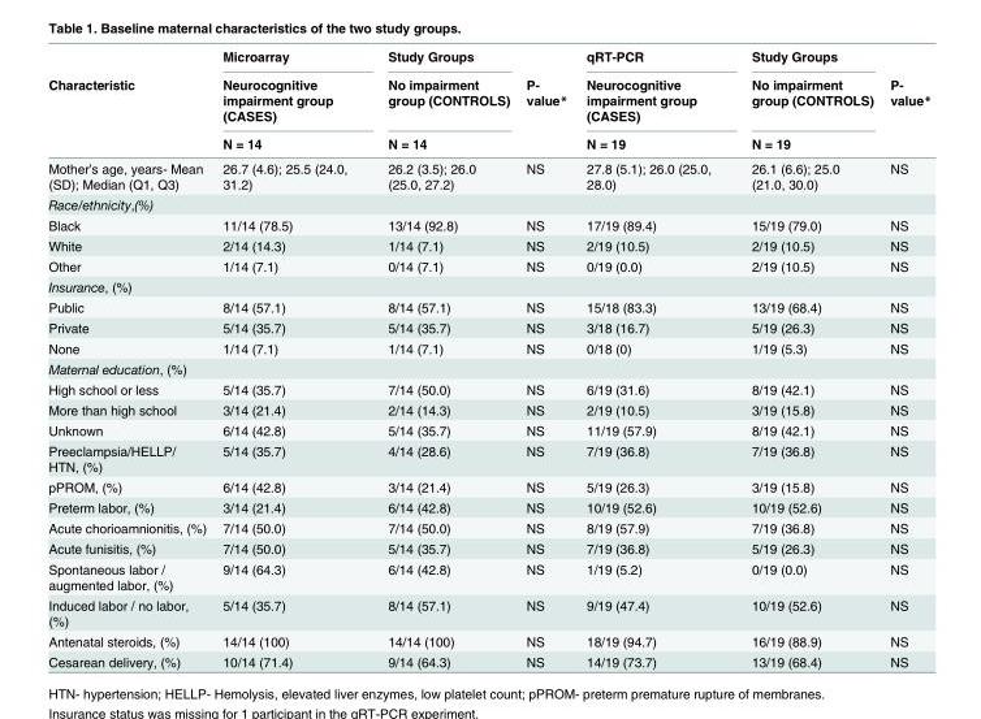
<table><thead><tr><td rowspan="3">Characteristic</td><td rowspan="3">Microarray Neurocognitive impairment group (CASES) N = 14</td><td rowspan="3">Study Groups No impairment group (CONTROLS) N = 14</td><td rowspan="3">P- value*</td><td rowspan="3">qRT-PCR Neurocognitive impairment group (CASES) N = 19</td><td rowspan="3">Study Groups No impairment group (CONTROLS) N = 19</td><td rowspan="3">P- value*</td></tr><tr></tr><tr></tr></thead><tbody><tr><td>Mother’s age, years- Mean (SD); Median (Q1, Q3)</td><td>26.7 (4.6); 25.5 (24.0, 31.2)</td><td>26.2 (3.5); 26.0 (25.0, 27.2)</td><td>NS</td><td>27.8 (5.1); 26.0 (25.0, 28.0)</td><td>26.1 (6.6); 25.0 (21.0, 30.0)</td><td>NS</td></tr><tr><td colspan="7">Race/ethnicity,(%)</td></tr><tr><td>Black</td><td>11/14 (78.5)</td><td>13/14 (92.8)</td><td>NS</td><td>17/19 (89.4)</td><td>15/19 (79.0)</td><td>NS</td></tr><tr><td>White</td><td>2/14 (14.3)</td><td>1/14 (7.1)</td><td>NS</td><td>2/19 (10.5)</td><td>2/19 (10.5)</td><td>NS</td></tr><tr><td>Other</td><td>1/14 (7.1)</td><td>0/14 (7.1)</td><td>NS</td><td>0/19 (0.0)</td><td>2/19 (10.5)</td><td>NS</td></tr><tr><td colspan="7">Insurance, (%)</td></tr><tr><td>Public</td><td>8/14 (57.1)</td><td>8/14 (57.1)</td><td>NS</td><td>15/18 (83.3)</td><td>13/19 (68.4)</td><td>NS</td></tr><tr><td>Private</td><td>5/14 (35.7)</td><td>5/14 (35.7)</td><td>NS</td><td>3/18 (16.7)</td><td>5/19 (26.3)</td><td>NS</td></tr><tr><td>None</td><td>1/14 (7.1)</td><td>1/14 (7.1)</td><td>NS</td><td>0/18 (0)</td><td>1/19 (5.3)</td><td>NS</td></tr><tr><td colspan="7">Maternal education, (%)</td></tr><tr><td>High school or less</td><td>5/14 (35.7)</td><td>7/14 (50.0)</td><td>NS</td><td>6/19 (31.6)</td><td>8/19 (42.1)</td><td>NS</td></tr><tr><td>More than high school</td><td>3/14 (21.4)</td><td>2/14 (14.3)</td><td>NS</td><td>2/19 (10.5)</td><td>3/19 (15.8)</td><td>NS</td></tr><tr><td>Unknown</td><td>6/14 (42.8)</td><td>5/14 (35.7)</td><td>NS</td><td>11/19 (57.9)</td><td>8/19 (42.1)</td><td>NS</td></tr><tr><td>Preeclampsia/HELLP/ HTN, (%)</td><td>5/14 (35.7)</td><td>4/14 (28.6)</td><td>NS</td><td>7/19 (36.8)</td><td>7/19 (36.8)</td><td>NS</td></tr><tr><td>pPROM, (%)</td><td>6/14 (42.8)</td><td>3/14 (21.4)</td><td>NS</td><td>5/19 (26.3)</td><td>3/19 (15.8)</td><td>NS</td></tr><tr><td>Preterm labor, (%)</td><td>3/14 (21.4)</td><td>6/14 (42.8)</td><td>NS</td><td>10/19 (52.6)</td><td>10/19 (52.6)</td><td>NS</td></tr><tr><td>Acute chorioamnionitis, (%)</td><td>7/14 (50.0)</td><td>7/14 (50.0)</td><td>NS</td><td>8/19 (57.9)</td><td>7/19 (36.8)</td><td>NS</td></tr><tr><td>Acute funisitis, (%)</td><td>7/14 (50.0)</td><td>5/14 (35.7)</td><td>NS</td><td>7/19 (36.8)</td><td>5/19 (26.3)</td><td>NS</td></tr><tr><td>Spontaneous labor / augmented labor, (%)</td><td>9/14 (64.3)</td><td>6/14 (42.8)</td><td>NS</td><td>1/19 (5.2)</td><td>0/19 (0.0)</td><td>NS</td></tr><tr><td>Induced labor / no labor, (%)</td><td>5/14 (35.7)</td><td>8/14 (57.1)</td><td>NS</td><td>9/19 (47.4)</td><td>10/19 (52.6)</td><td>NS</td></tr><tr><td>Antenatal steroids, (%)</td><td>14/14 (100)</td><td>14/14 (100)</td><td>NS</td><td>18/19 (94.7)</td><td>16/19 (88.9)</td><td>NS</td></tr><tr><td>Cesarean delivery, (%)</td><td>10/14 (71.4)</td><td>9/14 (64.3)</td><td>NS</td><td>14/19 (73.7)</td><td>13/19 (68.4)</td><td>NS</td></tr></tbody></table>